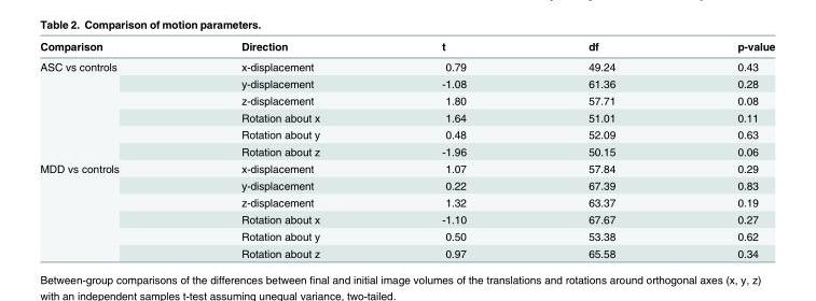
<table><thead><tr><td>Comparison</td><td>Direction</td><td>t</td><td>df</td><td>p-value</td></tr></thead><tbody><tr><td rowspan="6">ASC vs controls</td><td>x-displacement</td><td>0.79</td><td>49.24</td><td>0.43</td></tr><tr><td>y-displacement</td><td>-1.08</td><td>61.36</td><td>0.28</td></tr><tr><td>z-displacement</td><td>1.80</td><td>57.71</td><td>0.08</td></tr><tr><td>Rotation about x</td><td>1.64</td><td>51.01</td><td>0.11</td></tr><tr><td>Rotation about y</td><td>0.48</td><td>52.09</td><td>0.63</td></tr><tr><td>Rotation about z</td><td>-1.96</td><td>50.15</td><td>0.06</td></tr><tr><td rowspan="6">MDD vs controls</td><td>x-displacement</td><td>1.07</td><td>57.84</td><td>0.29</td></tr><tr><td>y-displacement</td><td>0.22</td><td>67.39</td><td>0.83</td></tr><tr><td>z-displacement</td><td>1.32</td><td>63.37</td><td>0.19</td></tr><tr><td>Rotation about x</td><td>-1.10</td><td>67.67</td><td>0.27</td></tr><tr><td>Rotation about y</td><td>0.50</td><td>53.38</td><td>0.62</td></tr><tr><td>Rotation about z</td><td>0.97</td><td>65.58</td><td>0.34</td></tr></tbody></table>